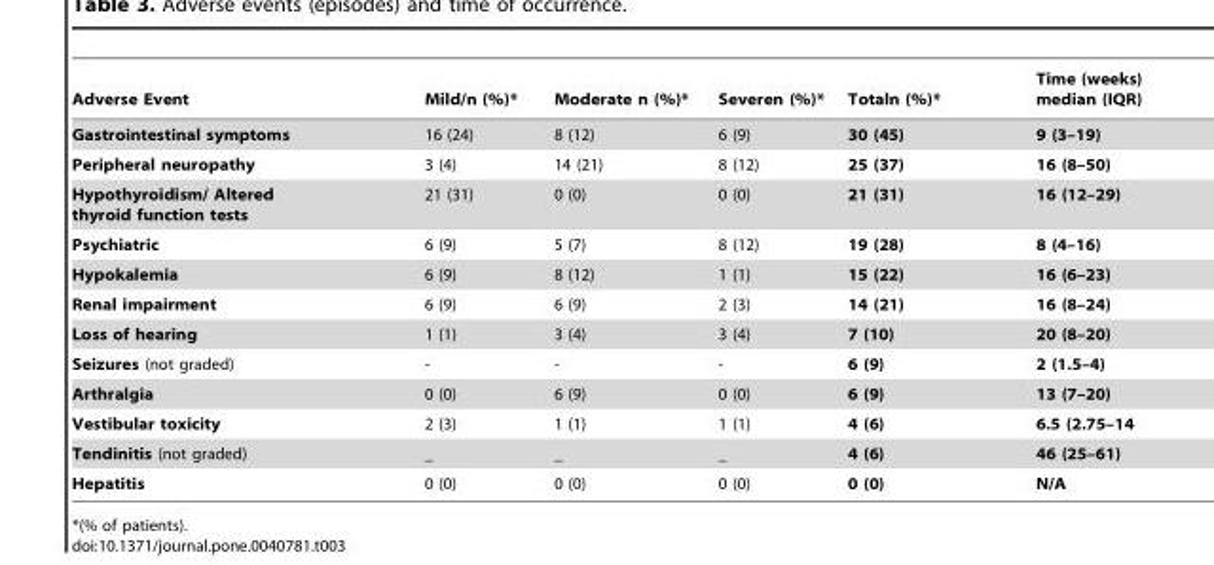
<table><thead><tr><td>Adverse Event</td><td>Mild/n (%)*</td><td>Moderate n (%)*</td><td>Severen (%)*</td><td>Totaln (%)*</td><td>Time (weeks) median (IQR)</td></tr></thead><tbody><tr><td>Gastrointestinal symptoms</td><td>16 (24)</td><td>8 (12)</td><td>6 (9)</td><td>30 (45)</td><td>9 (3–19)</td></tr><tr><td>Peripheral neuropathy</td><td>3 (4)</td><td>14 (21)</td><td>8 (12)</td><td>25 (37)</td><td>16 (8–50)</td></tr><tr><td>Hypothyroidism/ Altered thyroid function tests</td><td>21 (31)</td><td>0 (0)</td><td>0 (0)</td><td>21 (31)</td><td>16 (12–29)</td></tr><tr><td>Psychiatric</td><td>6 (9)</td><td>5 (7)</td><td>8 (12)</td><td>19 (28)</td><td>8 (4–16)</td></tr><tr><td>Hypokalemia</td><td>6 (9)</td><td>8 (12)</td><td>1 (1)</td><td>15 (22)</td><td>16 (6–23)</td></tr><tr><td>Renal impairment</td><td>6 (9)</td><td>6 (9)</td><td>2 (3)</td><td>14 (21)</td><td>16 (8–24)</td></tr><tr><td>Loss of hearing</td><td>1 (1)</td><td>3 (4)</td><td>3 (4)</td><td>7 (10)</td><td>20 (8–20)</td></tr><tr><td>Seizures (not graded)</td><td>-</td><td>-</td><td>-</td><td>6 (9)</td><td>2 (1.5–4)</td></tr><tr><td>Arthralgia</td><td>0 (0)</td><td>6 (9)</td><td>0 (0)</td><td>6 (9)</td><td>13 (7–20)</td></tr><tr><td>Vestibular toxicity</td><td>2 (3)</td><td>1 (1)</td><td>1 (1)</td><td>4 (6)</td><td>6.5 (2.75–14</td></tr><tr><td>Tendinitis (not graded)</td><td>_</td><td>_</td><td>_</td><td>4 (6)</td><td>46 (25–61)</td></tr><tr><td>Hepatitis</td><td>0 (0)</td><td>0 (0)</td><td>0 (0)</td><td>0 (0)</td><td>N/A</td></tr></tbody></table>